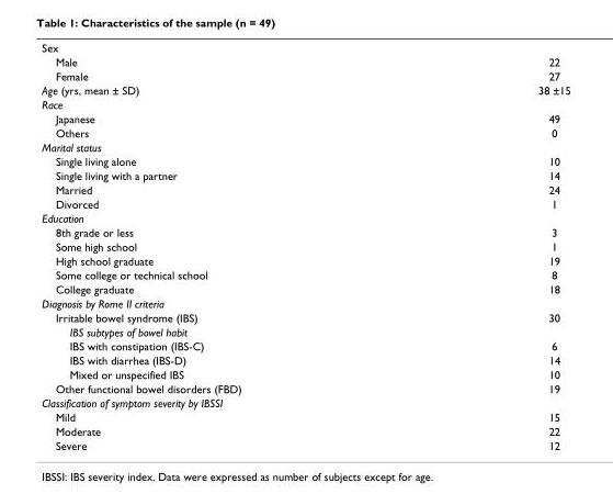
<table><tbody><tr><td colspan="2">Sex</td></tr><tr><td>Male</td><td>22</td></tr><tr><td>Female</td><td>27</td></tr><tr><td>Age (yrs, mean ± SD)</td><td>38 ±15</td></tr><tr><td colspan="2">Race</td></tr><tr><td>Japanese</td><td>49</td></tr><tr><td>Others</td><td>0</td></tr><tr><td colspan="2">Marital status</td></tr><tr><td>Single living alone</td><td>10</td></tr><tr><td>Single living with a partner</td><td>14</td></tr><tr><td>Married</td><td>24</td></tr><tr><td>Divorced</td><td>1</td></tr><tr><td colspan="2">Education</td></tr><tr><td>8th grade or less</td><td>3</td></tr><tr><td>Some high school</td><td>1</td></tr><tr><td>High school graduate</td><td>19</td></tr><tr><td>Some college or technical school</td><td>8</td></tr><tr><td>College graduate</td><td>18</td></tr><tr><td colspan="2">Diagnosis by Rome II criteria</td></tr><tr><td>Irritable bowel syndrome (IBS)</td><td>30</td></tr><tr><td colspan="2">IBS subtypes of bowel habit</td></tr><tr><td>IBS with constipation (IBS-C)</td><td>6</td></tr><tr><td>IBS with diarrhea (IBS-D)</td><td>14</td></tr><tr><td>Mixed or unspecified IBS</td><td>10</td></tr><tr><td>Other functional bowel disorders (FBD)</td><td>19</td></tr><tr><td colspan="2">Classification of symptom severity by IBSSI</td></tr><tr><td>Mild</td><td>15</td></tr><tr><td>Moderate</td><td>22</td></tr><tr><td>Severe</td><td>12</td></tr></tbody></table>